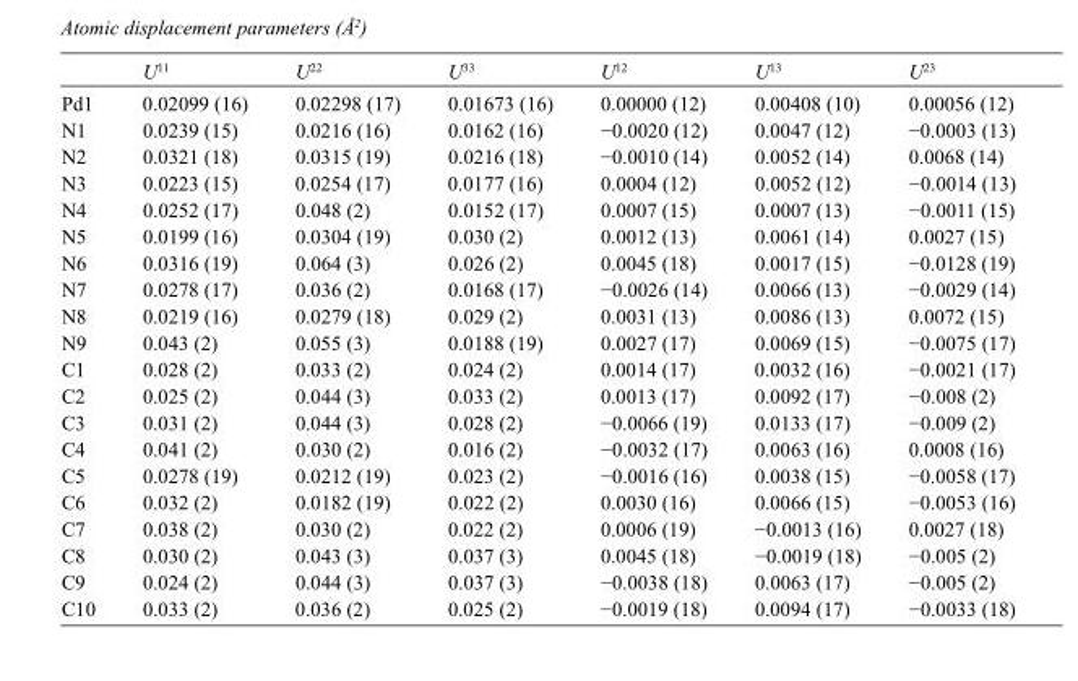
<table><thead><tr><td></td><td>U<sup>11</sup></td><td>U<sup>22</sup></td><td>U<sup>33</sup></td><td>U<sup>12</sup></td><td>U<sup>13</sup></td><td>U<sup>23</sup></td></tr></thead><tbody><tr><td>Pd1</td><td>0.02099 (16)</td><td>0.02298 (17)</td><td>0.01673 (16)</td><td>0.00000 (12)</td><td>0.00408 (10)</td><td>0.00056 (12)</td></tr><tr><td>N1</td><td>0.0239 (15)</td><td>0.0216 (16)</td><td>0.0162 (16)</td><td>−0.0020 (12)</td><td>0.0047 (12)</td><td>−0.0003 (13)</td></tr><tr><td>N2</td><td>0.0321 (18)</td><td>0.0315 (19)</td><td>0.0216 (18)</td><td>−0.0010 (14)</td><td>0.0052 (14)</td><td>0.0068 (14)</td></tr><tr><td>N3</td><td>0.0223 (15)</td><td>0.0254 (17)</td><td>0.0177 (16)</td><td>0.0004 (12)</td><td>0.0052 (12)</td><td>−0.0014 (13)</td></tr><tr><td>N4</td><td>0.0252 (17)</td><td>0.048 (2)</td><td>0.0152 (17)</td><td>0.0007 (15)</td><td>0.0007 (13)</td><td>−0.0011 (15)</td></tr><tr><td>N5</td><td>0.0199 (16)</td><td>0.0304 (19)</td><td>0.030 (2)</td><td>0.0012 (13)</td><td>0.0061 (14)</td><td>0.0027 (15)</td></tr><tr><td>N6</td><td>0.0316 (19)</td><td>0.064 (3)</td><td>0.026 (2)</td><td>0.0045 (18)</td><td>0.0017 (15)</td><td>−0.0128 (19)</td></tr><tr><td>N7</td><td>0.0278 (17)</td><td>0.036 (2)</td><td>0.0168 (17)</td><td>−0.0026 (14)</td><td>0.0066 (13)</td><td>−0.0029 (14)</td></tr><tr><td>N8</td><td>0.0219 (16)</td><td>0.0279 (18)</td><td>0.029 (2)</td><td>0.0031 (13)</td><td>0.0086 (13)</td><td>0.0072 (15)</td></tr><tr><td>N9</td><td>0.043 (2)</td><td>0.055 (3)</td><td>0.0188 (19)</td><td>0.0027 (17)</td><td>0.0069 (15)</td><td>−0.0075 (17)</td></tr><tr><td>C1</td><td>0.028 (2)</td><td>0.033 (2)</td><td>0.024 (2)</td><td>0.0014 (17)</td><td>0.0032 (16)</td><td>−0.0021 (17)</td></tr><tr><td>C2</td><td>0.025 (2)</td><td>0.044 (3)</td><td>0.033 (2)</td><td>0.0013 (17)</td><td>0.0092 (17)</td><td>−0.008 (2)</td></tr><tr><td>C3</td><td>0.031 (2)</td><td>0.044 (3)</td><td>0.028 (2)</td><td>−0.0066 (19)</td><td>0.0133 (17)</td><td>−0.009 (2)</td></tr><tr><td>C4</td><td>0.041 (2)</td><td>0.030 (2)</td><td>0.016 (2)</td><td>−0.0032 (17)</td><td>0.0063 (16)</td><td>0.0008 (16)</td></tr><tr><td>C5</td><td>0.0278 (19)</td><td>0.0212 (19)</td><td>0.023 (2)</td><td>−0.0016 (16)</td><td>0.0038 (15)</td><td>−0.0058 (17)</td></tr><tr><td>C6</td><td>0.032 (2)</td><td>0.0182 (19)</td><td>0.022 (2)</td><td>0.0030 (16)</td><td>0.0066 (15)</td><td>−0.0053 (16)</td></tr><tr><td>C7</td><td>0.038 (2)</td><td>0.030 (2)</td><td>0.022 (2)</td><td>0.0006 (19)</td><td>−0.0013 (16)</td><td>0.0027 (18)</td></tr><tr><td>C8</td><td>0.030 (2)</td><td>0.043 (3)</td><td>0.037 (3)</td><td>0.0045 (18)</td><td>−0.0019 (18)</td><td>−0.005 (2)</td></tr><tr><td>C9</td><td>0.024 (2)</td><td>0.044 (3)</td><td>0.037 (3)</td><td>−0.0038 (18)</td><td>0.0063 (17)</td><td>−0.005 (2)</td></tr><tr><td>C10</td><td>0.033 (2)</td><td>0.036 (2)</td><td>0.025 (2)</td><td>−0.0019 (18)</td><td>0.0094 (17)</td><td>−0.0033 (18)</td></tr></tbody></table>